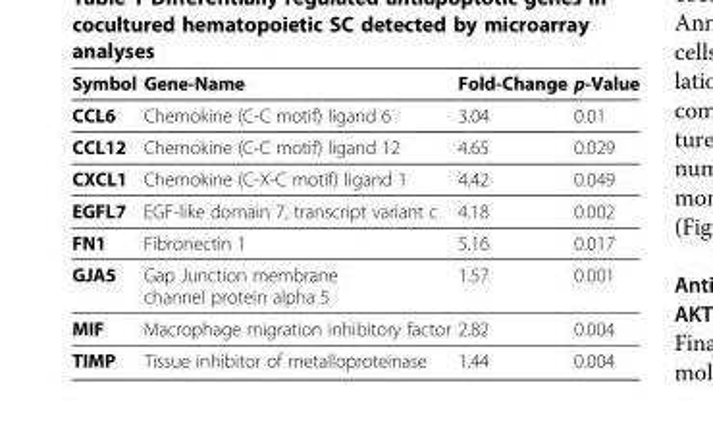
<table><tbody><tr><td>Symbol</td><td>Gene-Name</td><td>Fold-Change</td><td>p-Value</td></tr><tr><td>CCL6</td><td>Chemokine (C-C motif) ligand 6</td><td>3.04</td><td>0.01</td></tr><tr><td>CCL12</td><td>Chemokine (C-C motif) ligand 12</td><td>4.65</td><td>0.029</td></tr><tr><td>CXCL1</td><td>Chemokine (C-X-C motif) ligand 1</td><td>4.42</td><td>0.049</td></tr><tr><td>EGFL7</td><td>EGF-like domain 7, transcript variant c</td><td>4.18</td><td>0.002</td></tr><tr><td>FN1</td><td>Fibronectin 1</td><td>5.16</td><td>0.017</td></tr><tr><td>GJA5</td><td>Gap Junction membrane channel protein alpha 5</td><td>1.57</td><td>0.001</td></tr><tr><td>MIF</td><td>Macrophage migration inhibitory factor</td><td>2.82</td><td>0.004</td></tr><tr><td>TIMP</td><td>Tissue inhibitor of metalloproteinase</td><td>1.44</td><td>0.004</td></tr></tbody></table>